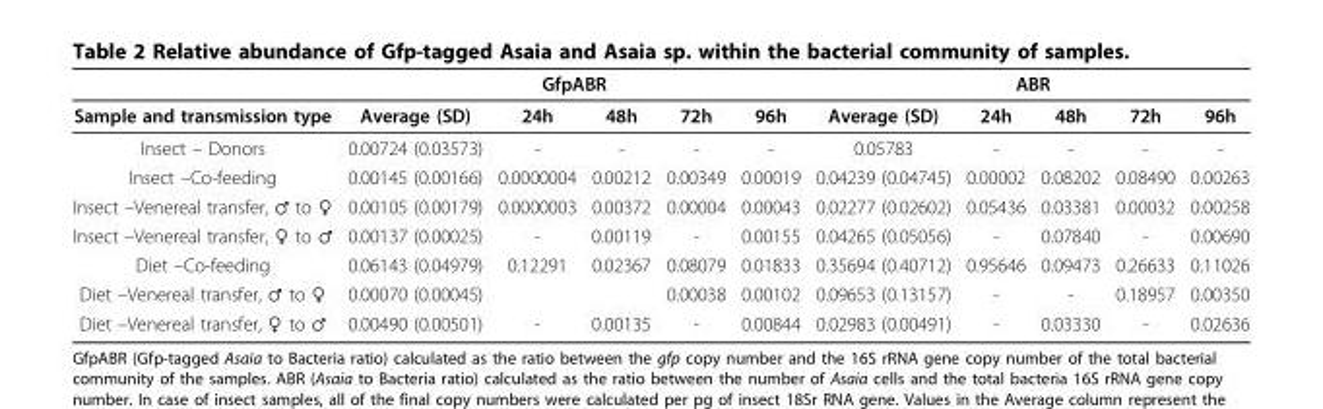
<table><thead><tr><td rowspan="2">Sample and transmission type</td><td colspan="5">GfpABR</td><td colspan="5">ABR</td></tr><tr><td>Average (SD)</td><td>24h</td><td>48h</td><td>72h</td><td>96h</td><td>Average (SD)</td><td>24h</td><td>48h</td><td>72h</td><td>96h</td></tr></thead><tbody><tr><td>Insect – Donors</td><td>0.00724 (0.03573)</td><td>-</td><td>-</td><td>-</td><td>-</td><td>0.05783</td><td>-</td><td>-</td><td>-</td><td>-</td></tr><tr><td>Insect –Co-feeding</td><td>0.00145 (0.00166)</td><td>0.0000004</td><td>0.00212</td><td>0.00349</td><td>0.00019</td><td>0.04239 (0.04745)</td><td>0.00002</td><td>0.08202</td><td>0.08490</td><td>0.00263</td></tr><tr><td>Insect –Venereal transfer, ♂ to ♀</td><td>0.00105 (0.00179)</td><td>0.0000003</td><td>0.00372</td><td>0.00004</td><td>0.00043</td><td>0.02277 (0.02602)</td><td>0.05436</td><td>0.03381</td><td>0.00032</td><td>0.00258</td></tr><tr><td>Insect –Venereal transfer, ♀ to ♂</td><td>0.00137 (0.00025)</td><td>-</td><td>0.00119</td><td>-</td><td>0.00155</td><td>0.04265 (0.05056)</td><td>-</td><td>0.07840</td><td>-</td><td>0.00690</td></tr><tr><td>Diet –Co-feeding</td><td>0.06143 (0.04979)</td><td>0.12291</td><td>0.02367</td><td>0.08079</td><td>0.01833</td><td>0.35694 (0.40712)</td><td>0.95646</td><td>0.09473</td><td>0.26633</td><td>0.11026</td></tr><tr><td>Diet –Venereal transfer, ♂ to ♀</td><td>0.00070 (0.00045)</td><td></td><td></td><td>0.00038</td><td>0.00102</td><td>0.09653 (0.13157)</td><td>-</td><td>-</td><td>0.18957</td><td>0.00350</td></tr><tr><td>Diet –Venereal transfer, ♀ to ♂</td><td>0.00490 (0.00501)</td><td>-</td><td>0.00135</td><td>-</td><td>0.00844</td><td>0.02983 (0.00491)</td><td>-</td><td>0.03330</td><td>-</td><td>0.02636</td></tr></tbody></table>